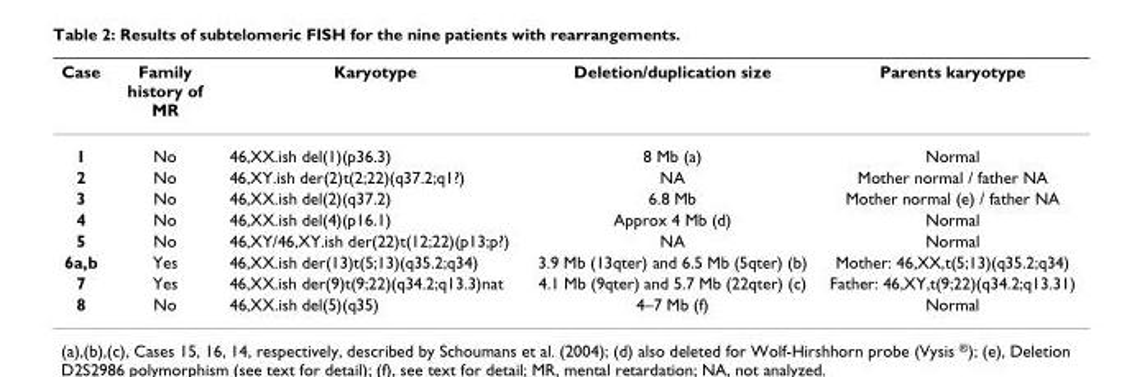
<table><thead><tr><td>Case</td><td>Family history of MR</td><td>Karyotype</td><td>Deletion/duplication size</td><td>Parents karyotype</td></tr></thead><tbody><tr><td>1</td><td>No</td><td>46,XX.ish del(1)(p36.3)</td><td>8 Mb (a)</td><td>Normal</td></tr><tr><td>2</td><td>No</td><td>46,XY.ish der(2)t(2;22)(q37.2;q1?)</td><td>NA</td><td>Mother normal / father NA</td></tr><tr><td>3</td><td>No</td><td>46,XX.ish del(2)(q37.2)</td><td>6.8 Mb</td><td>Mother normal (e) / father NA</td></tr><tr><td>4</td><td>No</td><td>46,XX.ish del(4)(p16.1)</td><td>Approx 4 Mb (d)</td><td>Normal</td></tr><tr><td>5</td><td>No</td><td>46,XY/46,XY.ish der(22)t(12;22)(p13;p?)</td><td>NA</td><td>Normal</td></tr><tr><td>6a,b</td><td>Yes</td><td>46,XX.ish der(13)t(5;13)(q35.2;q34)</td><td>3.9 Mb (13qter) and 6.5 Mb (5qter) (b)</td><td>Mother: 46,XX,t(5;13)(q35.2;q34)</td></tr><tr><td>7</td><td>Yes</td><td>46,XX.ish der(9)t(9;22)(q34.2;q13.3)nat</td><td>4.1 Mb (9qter) and 5.7 Mb (22qter) (c)</td><td>Father: 46,XY,t(9;22)(q34.2;q13.31)</td></tr><tr><td>8</td><td>No</td><td>46,XX.ish del(5)(q35)</td><td>4–7 Mb (f)</td><td>Normal</td></tr></tbody></table>